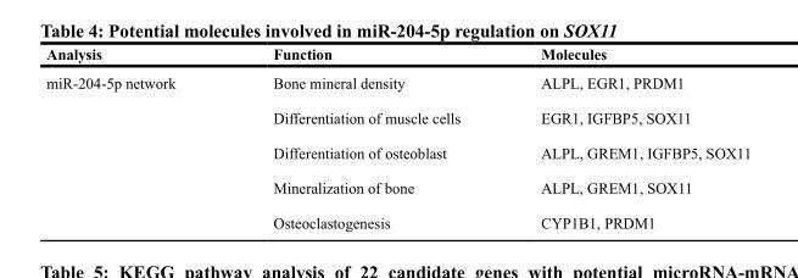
<table><thead><tr><td>Analysis</td><td>Function</td><td>Molecules</td></tr></thead><tbody><tr><td rowspan="5">miR-204-5p network</td><td>Bone mineral density</td><td>ALPL, EGR1, PRDM1</td></tr><tr><td>Differentiation of muscle cells</td><td>EGR1, IGFBP5, SOX11</td></tr><tr><td>Differentiation of osteoblast</td><td>ALPL, GREM1, IGFBP5, SOX11</td></tr><tr><td>Mineralization of bone</td><td>ALPL, GREM1, SOX11</td></tr><tr><td>Osteoclastogenesis</td><td>CYP1B1, PRDM1</td></tr></tbody></table>